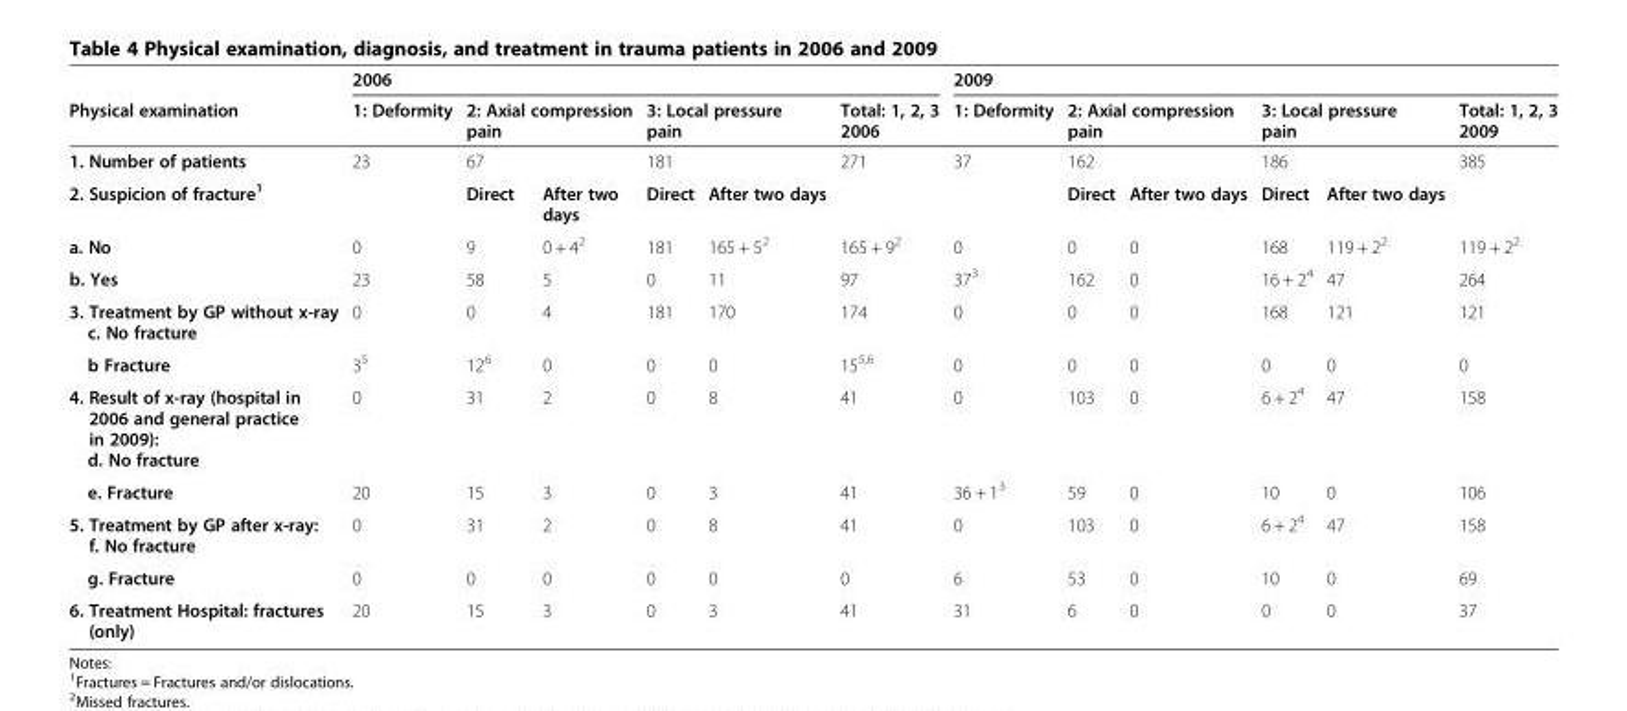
<table><thead><tr><td rowspan="4">Physical examination 1. Number of patients 2. Suspicion of fracture<sup>1</sup></td><td colspan="6">2006</td><td colspan="6">2009</td></tr><tr><td rowspan="3">1: Deformity 23</td><td rowspan="2" colspan="2">2: Axial compression pain 67</td><td rowspan="2" colspan="2">3: Local pressure pain 181</td><td rowspan="3">Total: 1, 2, 3 2006 271</td><td rowspan="3">1: Deformity 37</td><td rowspan="2" colspan="2">2: Axial compression pain 162</td><td rowspan="2" colspan="2">3: Local pressure pain 186</td><td rowspan="3">Total: 1, 2, 3 2009 385</td></tr><tr></tr><tr><td>Direct</td><td>After two days</td><td>Direct</td><td>After two days</td><td>Direct</td><td>After two days</td><td>Direct</td><td>After two days</td></tr></thead><tbody><tr><td>a. No</td><td>0</td><td>9</td><td>0 + 4<sup>2</sup></td><td>181</td><td>165 + 5<sup>2</sup></td><td>165 + 9<sup>2</sup></td><td>0</td><td>0</td><td>0</td><td>168</td><td>119 + 2<sup>2</sup></td><td>119 + 2<sup>2</sup></td></tr><tr><td>b. Yes</td><td>23</td><td>58</td><td>5</td><td>0</td><td>11</td><td>97</td><td>37<sup>3</sup></td><td>162</td><td>0</td><td>16 + 2<sup>4</sup></td><td>47</td><td>264</td></tr><tr><td>3. Treatment by GP without x-ray c. No fracture</td><td>0</td><td>0</td><td>4</td><td>181</td><td>170</td><td>174</td><td>0</td><td>0</td><td>0</td><td>168</td><td>121</td><td>121</td></tr><tr><td>b Fracture</td><td>3<sup>5</sup></td><td>12<sup>6</sup></td><td>0</td><td>0</td><td>0</td><td>15<sup>5,6</sup></td><td>0</td><td>0</td><td>0</td><td>0</td><td>0</td><td>0</td></tr><tr><td>4. Result of x-ray (hospital in 2006 and general practice in 2009): d. No fracture</td><td>0</td><td>31</td><td>2</td><td>0</td><td>8</td><td>41</td><td>0</td><td>103</td><td>0</td><td>6 + 2<sup>4</sup></td><td>47</td><td>158</td></tr><tr><td>e. Fracture</td><td>20</td><td>15</td><td>3</td><td>0</td><td>3</td><td>41</td><td>36 + 1<sup>3</sup></td><td>59</td><td>0</td><td>10</td><td>0</td><td>106</td></tr><tr><td>5. Treatment by GP after x-ray: f. No fracture</td><td>0</td><td>31</td><td>2</td><td>0</td><td>8</td><td>41</td><td>0</td><td>103</td><td>0</td><td>6 + 2<sup>4</sup></td><td>47</td><td>158</td></tr><tr><td>g. Fracture</td><td>0</td><td>0</td><td>0</td><td>0</td><td>0</td><td>0</td><td>6</td><td>53</td><td>0</td><td>10</td><td>0</td><td>69</td></tr><tr><td>6. Treatment Hospital: fractures (only)</td><td>20</td><td>15</td><td>3</td><td>0</td><td>3</td><td>41</td><td>31</td><td>6</td><td>0</td><td>0</td><td>0</td><td>37</td></tr></tbody></table>